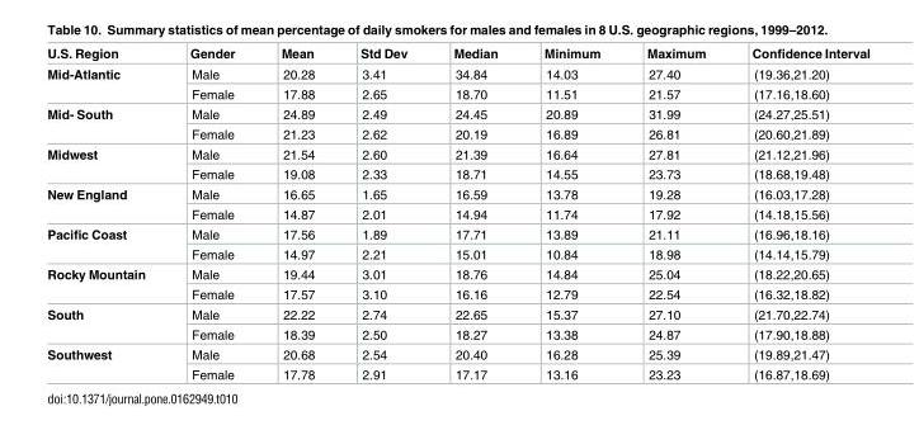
<table><thead><tr><td>U.S. Region</td><td>Gender</td><td>Mean</td><td>Std Dev</td><td>Median</td><td>Minimum</td><td>Maximum</td><td>Confidence Interval</td></tr></thead><tbody><tr><td rowspan="2">Mid-Atlantic</td><td>Male</td><td>20.28</td><td>3.41</td><td>34.84</td><td>14.03</td><td>27.40</td><td>(19.36,21.20)</td></tr><tr><td>Female</td><td>17.88</td><td>2.65</td><td>18.70</td><td>11.51</td><td>21.57</td><td>(17.16,18.60)</td></tr><tr><td rowspan="2">Mid- South</td><td>Male</td><td>24.89</td><td>2.49</td><td>24.45</td><td>20.89</td><td>31.99</td><td>(24.27,25.51)</td></tr><tr><td>Female</td><td>21.23</td><td>2.62</td><td>20.19</td><td>16.89</td><td>26.81</td><td>(20.60,21.89)</td></tr><tr><td rowspan="2">Midwest</td><td>Male</td><td>21.54</td><td>2.60</td><td>21.39</td><td>16.64</td><td>27.81</td><td>(21.12,21.96)</td></tr><tr><td>Female</td><td>19.08</td><td>2.33</td><td>18.71</td><td>14.55</td><td>23.73</td><td>(18.68,19.48)</td></tr><tr><td rowspan="2">New England</td><td>Male</td><td>16.65</td><td>1.65</td><td>16.59</td><td>13.78</td><td>19.28</td><td>(16.03,17.28)</td></tr><tr><td>Female</td><td>14.87</td><td>2.01</td><td>14.94</td><td>11.74</td><td>17.92</td><td>(14.18,15.56)</td></tr><tr><td rowspan="2">Pacific Coast</td><td>Male</td><td>17.56</td><td>1.89</td><td>17.71</td><td>13.89</td><td>21.11</td><td>(16.96,18.16)</td></tr><tr><td>Female</td><td>14.97</td><td>2.21</td><td>15.01</td><td>10.84</td><td>18.98</td><td>(14.14,15.79)</td></tr><tr><td rowspan="2">Rocky Mountain</td><td>Male</td><td>19.44</td><td>3.01</td><td>18.76</td><td>14.84</td><td>25.04</td><td>(18.22,20.65)</td></tr><tr><td>Female</td><td>17.57</td><td>3.10</td><td>16.16</td><td>12.79</td><td>22.54</td><td>(16.32,18.82)</td></tr><tr><td rowspan="2">South</td><td>Male</td><td>22.22</td><td>2.74</td><td>22.65</td><td>15.37</td><td>27.10</td><td>(21.70,22.74)</td></tr><tr><td>Female</td><td>18.39</td><td>2.50</td><td>18.27</td><td>13.38</td><td>24.87</td><td>(17.90,18.88)</td></tr><tr><td rowspan="2">Southwest</td><td>Male</td><td>20.68</td><td>2.54</td><td>20.40</td><td>16.28</td><td>25.39</td><td>(19.89,21.47)</td></tr><tr><td>Female</td><td>17.78</td><td>2.91</td><td>17.17</td><td>13.16</td><td>23.23</td><td>(16.87,18.69)</td></tr></tbody></table>